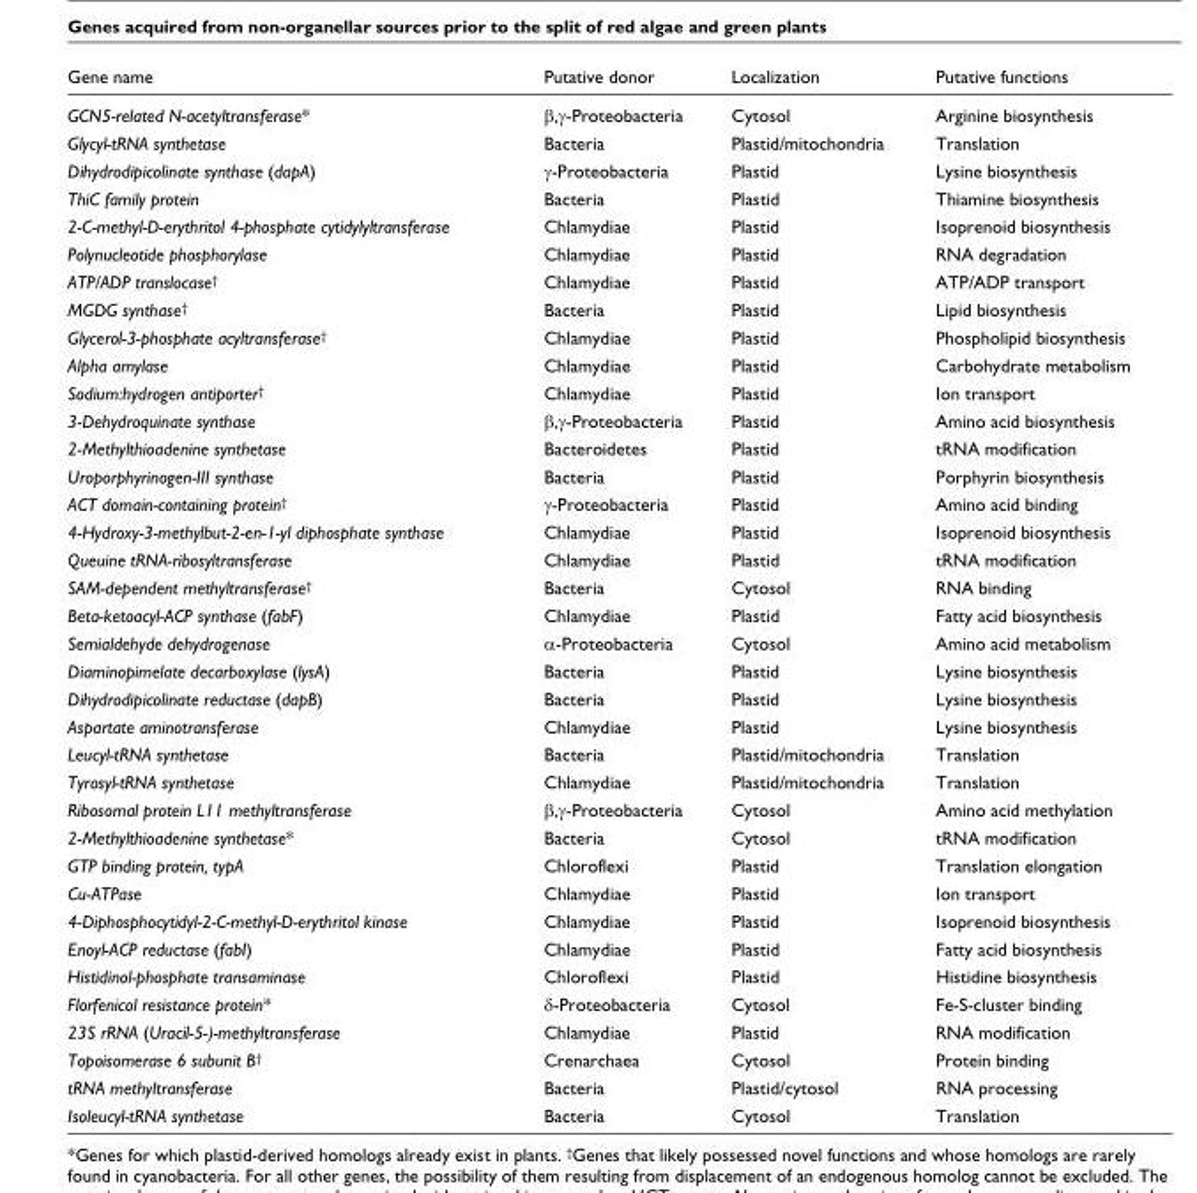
<table><thead><tr><td>Gene name</td><td>Putative donor</td><td>Localization</td><td>Putative functions</td></tr></thead><tbody><tr><td>GCN5-related N-acetyltransferase*</td><td>β,γ-Proteobacteria</td><td>Cytosol</td><td>Arginine biosynthesis</td></tr><tr><td>Glycyl-tRNA synthetase</td><td>Bacteria</td><td>Plastid/mitochondria</td><td>Translation</td></tr><tr><td>Dihydrodipicolinate synthase (dapA)</td><td>γ-Proteobacteria</td><td>Plastid</td><td>Lysine biosynthesis</td></tr><tr><td>ThiC family protein</td><td>Bacteria</td><td>Plastid</td><td>Thiamine biosynthesis</td></tr><tr><td>2-C-methyl-D-erythritol 4-phosphate cytidylyltransferase</td><td>Chlamydiae</td><td>Plastid</td><td>Isoprenoid biosynthesis</td></tr><tr><td>Polynucleotide phosphorylase</td><td>Chlamydiae</td><td>Plastid</td><td>RNA degradation</td></tr><tr><td>ATP/ADP translocase<sup>†</sup></td><td>Chlamydiae</td><td>Plastid</td><td>ATP/ADP transport</td></tr><tr><td>MGDG synthase<sup>†</sup></td><td>Bacteria</td><td>Plastid</td><td>Lipid biosynthesis</td></tr><tr><td>Glycerol-3-phosphate acyltransferase<sup>†</sup></td><td>Chlamydiae</td><td>Plastid</td><td>Phospholipid biosynthesis</td></tr><tr><td>Alpha amylase</td><td>Chlamydiae</td><td>Plastid</td><td>Carbohydrate metabolism</td></tr><tr><td>Sodium:hydrogen antiporter<sup>†</sup></td><td>Chlamydiae</td><td>Plastid</td><td>Ion transport</td></tr><tr><td>3-Dehydroquinate synthase</td><td>β,γ-Proteobacteria</td><td>Plastid</td><td>Amino acid biosynthesis</td></tr><tr><td>2-Methylthioadenine synthetase</td><td>Bacteroidetes</td><td>Plastid</td><td>tRNA modification</td></tr><tr><td>Uroporphyrinogen-III synthase</td><td>Bacteria</td><td>Plastid</td><td>Porphyrin biosynthesis</td></tr><tr><td>ACT domain-containing protein<sup>†</sup></td><td>γ-Proteobacteria</td><td>Plastid</td><td>Amino acid binding</td></tr><tr><td>4-Hydroxy-3-methylbut-2-en-1-yl diphosphate synthase</td><td>Chlamydiae</td><td>Plastid</td><td>Isoprenoid biosynthesis</td></tr><tr><td>Queuine tRNA-ribosyltransferase</td><td>Chlamydiae</td><td>Plastid</td><td>tRNA modification</td></tr><tr><td>SAM-dependent methyltransferase<sup>†</sup></td><td>Bacteria</td><td>Cytosol</td><td>RNA binding</td></tr><tr><td>Beta-ketoacyl-ACP synthase (fabF)</td><td>Chlamydiae</td><td>Plastid</td><td>Fatty acid biosynthesis</td></tr><tr><td>Semialdehyde dehydrogenase</td><td>α-Proteobacteria</td><td>Cytosol</td><td>Amino acid metabolism</td></tr><tr><td>Diaminopimelate decarboxylase (lysA)</td><td>Bacteria</td><td>Plastid</td><td>Lysine biosynthesis</td></tr><tr><td>Dihydrodipicolinate reductase (dapB)</td><td>Bacteria</td><td>Plastid</td><td>Lysine biosynthesis</td></tr><tr><td>Aspartate aminotransferase</td><td>Chlamydiae</td><td>Plastid</td><td>Lysine biosynthesis</td></tr><tr><td>Leucyl-tRNA synthetase</td><td>Bacteria</td><td>Plastid/mitochondria</td><td>Translation</td></tr><tr><td>Tyrosyl-tRNA synthetase</td><td>Chlamydiae</td><td>Plastid/mitochondria</td><td>Translation</td></tr><tr><td>Ribosomal protein L11 methyltransferase</td><td>β,γ-Proteobacteria</td><td>Cytosol</td><td>Amino acid methylation</td></tr><tr><td>2-Methylthioadenine synthetase*</td><td>Bacteria</td><td>Cytosol</td><td>tRNA modification</td></tr><tr><td>GTP binding protein, typA</td><td>Chloroflexi</td><td>Plastid</td><td>Translation elongation</td></tr><tr><td>Cu-ATPase</td><td>Chlamydiae</td><td>Plastid</td><td>Ion transport</td></tr><tr><td>4-Diphosphocytidyl-2-C-methyl-D-erythritol kinase</td><td>Chlamydiae</td><td>Plastid</td><td>Isoprenoid biosynthesis</td></tr><tr><td>Enoyl-ACP reductase (fabI)</td><td>Chlamydiae</td><td>Plastid</td><td>Fatty acid biosynthesis</td></tr><tr><td>Histidinol-phosphate transaminase</td><td>Chloroflexi</td><td>Plastid</td><td>Histidine biosynthesis</td></tr><tr><td>Florfenicol resistance protein*</td><td>δ-Proteobacteria</td><td>Cytosol</td><td>Fe-S-cluster binding</td></tr><tr><td>23S rRNA (Uracil-5-)-methyltransferase</td><td>Chlamydiae</td><td>Plastid</td><td>RNA modification</td></tr><tr><td>Topoisomerase 6 subunit B<sup>†</sup></td><td>Crenarchaea</td><td>Cytosol</td><td>Protein binding</td></tr><tr><td>tRNA methyltransferase</td><td>Bacteria</td><td>Plastid/cytosol</td><td>RNA processing</td></tr><tr><td>Isoleucyl-tRNA synthetase</td><td>Bacteria</td><td>Cytosol</td><td>Translation</td></tr></tbody></table>